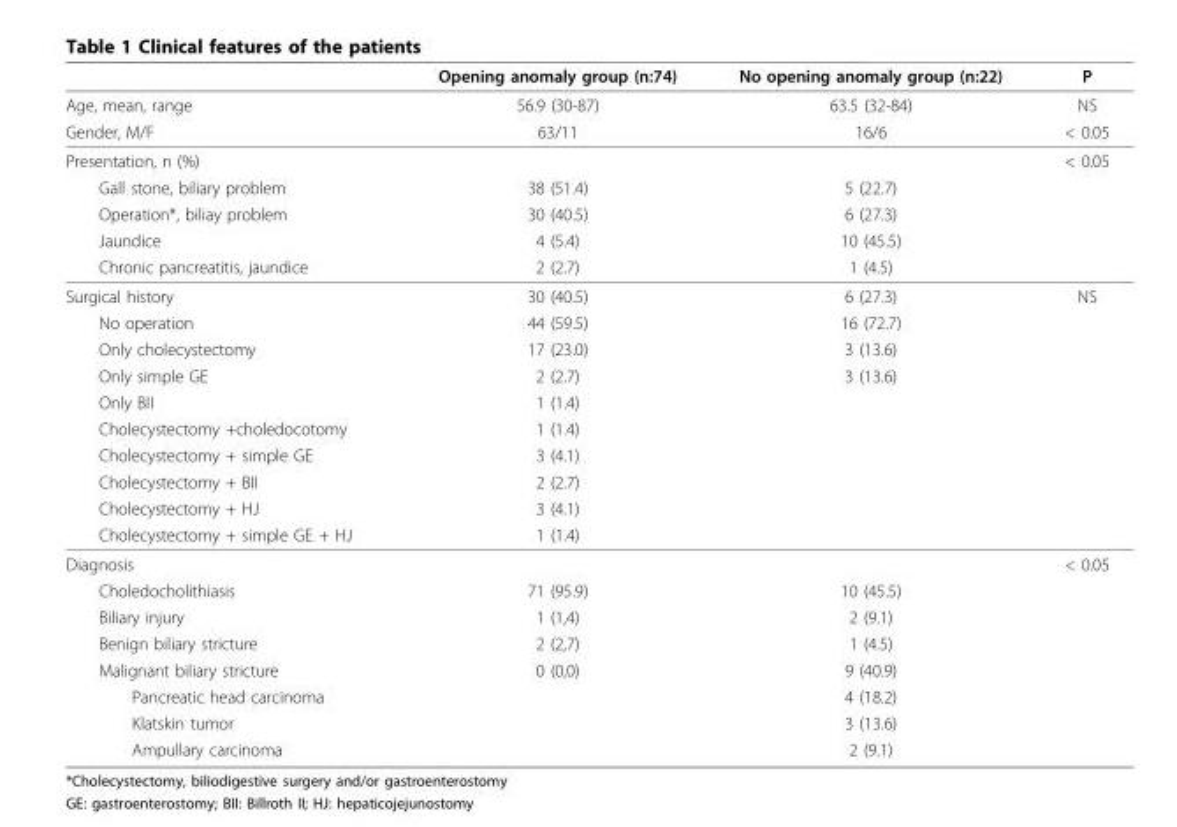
<table><thead><tr><td></td><td>Opening anomaly group (n:74)</td><td>No opening anomaly group (n:22)</td><td>P</td></tr></thead><tbody><tr><td>Age, mean, range</td><td>56.9 (30-87)</td><td>63.5 (32-84)</td><td>NS</td></tr><tr><td>Gender, M/F</td><td>63/11</td><td>16/6</td><td>&lt; 0.05</td></tr><tr><td>Presentation, n (%)</td><td></td><td></td><td>&lt; 0.05</td></tr><tr><td>Gall stone, biliary problem</td><td>38 (51.4)</td><td>5 (22.7)</td><td></td></tr><tr><td>Operation*, biliay problem</td><td>30 (40.5)</td><td>6 (27.3)</td><td></td></tr><tr><td>Jaundice</td><td>4 (5.4)</td><td>10 (45.5)</td><td></td></tr><tr><td>Chronic pancreatitis, jaundice</td><td>2 (2.7)</td><td>1 (4.5)</td><td></td></tr><tr><td>Surgical history</td><td>30 (40.5)</td><td>6 (27.3)</td><td>NS</td></tr><tr><td>No operation</td><td>44 (59.5)</td><td>16 (72.7)</td><td></td></tr><tr><td>Only cholecystectomy</td><td>17 (23.0)</td><td>3 (13.6)</td><td></td></tr><tr><td>Only simple GE</td><td>2 (2.7)</td><td>3 (13.6)</td><td></td></tr><tr><td>Only BII</td><td>1 (1.4)</td><td></td><td></td></tr><tr><td>Cholecystectomy +choledocotomy</td><td>1 (1.4)</td><td></td><td></td></tr><tr><td>Cholecystectomy + simple GE</td><td>3 (4.1)</td><td></td><td></td></tr><tr><td>Cholecystectomy + BII</td><td>2 (2.7)</td><td></td><td></td></tr><tr><td>Cholecystectomy + HJ</td><td>3 (4.1)</td><td></td><td></td></tr><tr><td>Cholecystectomy + simple GE + HJ</td><td>1 (1.4)</td><td></td><td></td></tr><tr><td>Diagnosis</td><td></td><td></td><td>&lt; 0.05</td></tr><tr><td>Choledocholithiasis</td><td>71 (95.9)</td><td>10 (45.5)</td><td></td></tr><tr><td>Biliary injury</td><td>1 (1,4)</td><td>2 (9.1)</td><td></td></tr><tr><td>Benign biliary stricture</td><td>2 (2,7)</td><td>1 (4.5)</td><td></td></tr><tr><td>Malignant biliary stricture</td><td>0 (0,0)</td><td>9 (40.9)</td><td></td></tr><tr><td>Pancreatic head carcinoma</td><td></td><td>4 (18.2)</td><td></td></tr><tr><td>Klatskin tumor</td><td></td><td>3 (13.6)</td><td></td></tr><tr><td>Ampullary carcinoma</td><td></td><td>2 (9.1)</td><td></td></tr></tbody></table>